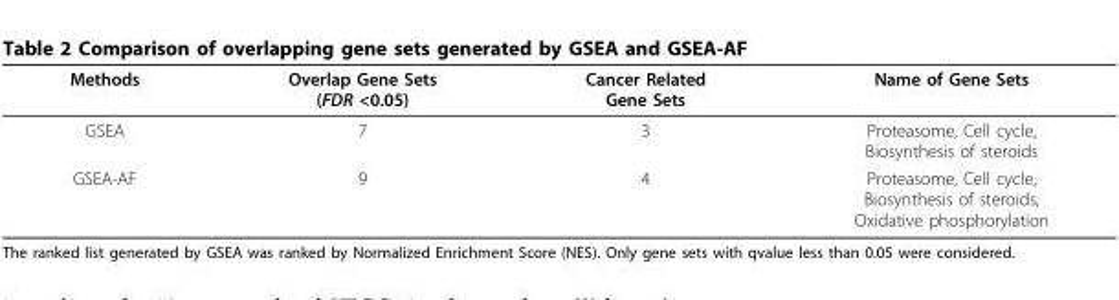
<table><thead><tr><td>Methods</td><td>Overlap Gene Sets (FDR &lt;0.05)</td><td>Cancer Related Gene Sets</td><td>Name of Gene Sets</td></tr></thead><tbody><tr><td>GSEA</td><td>7</td><td>3</td><td>Proteasome, Cell cycle, Biosynthesis of steroids</td></tr><tr><td>GSEA-AF</td><td>9</td><td>4</td><td>Proteasome, Cell cycle, Biosynthesis of steroids, Oxidative phosphorylation</td></tr></tbody></table>